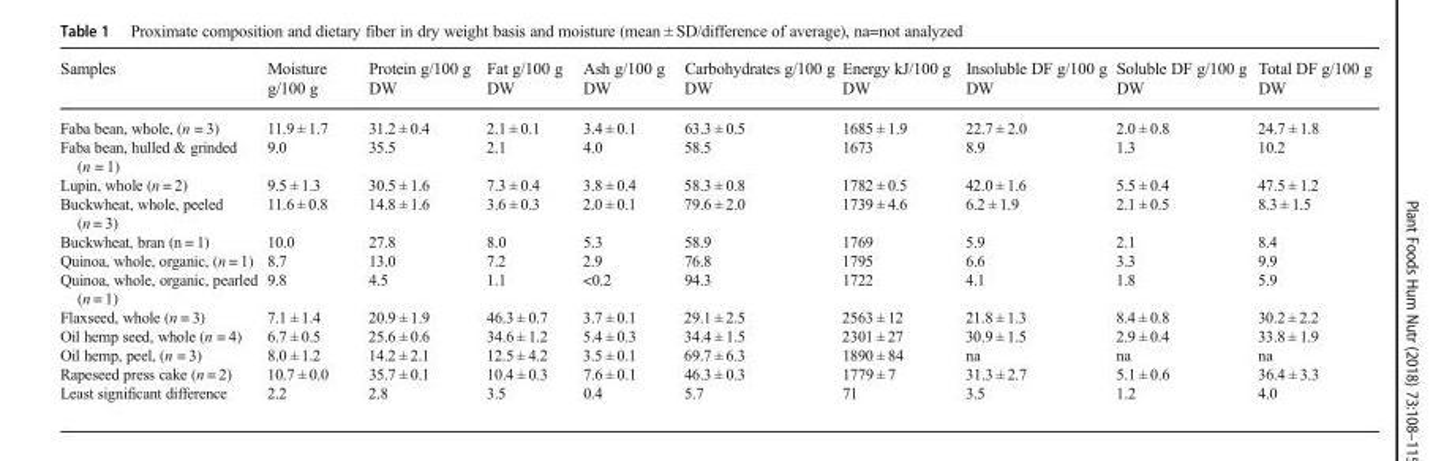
<table><thead><tr><td>Samples</td><td>Moisture g/100 g</td><td>Protein g/100 g DW</td><td>Fat g/100 g DW</td><td>Ash g/100 g DW</td><td>Carbohydrates g/100 g DW</td><td>Energy kJ/100 g DW</td><td>Insoluble DF g/100 g DW</td><td>Soluble DF g/100 g DW</td><td>Total DF g/100 g DW</td></tr></thead><tbody><tr><td>Faba bean, whole, (n = 3)</td><td>11.9 ± 1.7</td><td>31.2 ± 0.4</td><td>2.1 ± 0.1</td><td>3.4 ± 0.1</td><td>63.3 ± 0.5</td><td>1685 ± 1.9</td><td>22.7 ± 2.0</td><td>2.0 ± 0.8</td><td>24.7 ± 1.8</td></tr><tr><td>Faba bean, hulled &amp; grinded (n = 1)</td><td>9.0</td><td>35.5</td><td>2.1</td><td>4.0</td><td>58.5</td><td>1673</td><td>8.9</td><td>1.3</td><td>10.2</td></tr><tr><td>Lupin, whole (n = 2)</td><td>9.5 ± 1.3</td><td>30.5 ± 1.6</td><td>7.3 ± 0.4</td><td>3.8 ± 0.4</td><td>58.3 ± 0.8</td><td>1782 ± 0.5</td><td>42.0 ± 1.6</td><td>5.5 ± 0.4</td><td>47.5 ± 1.2</td></tr><tr><td>Buckwheat, whole, peeled (n = 3)</td><td>11.6 ± 0.8</td><td>14.8 ± 1.6</td><td>3.6 ± 0.3</td><td>2.0 ± 0.1</td><td>79.6 ± 2.0</td><td>1739 ± 4.6</td><td>6.2 ± 1.9</td><td>2.1 ± 0.5</td><td>8.3 ± 1.5</td></tr><tr><td>Buckwheat, bran (n = 1)</td><td>10.0</td><td>27.8</td><td>8.0</td><td>5.3</td><td>58.9</td><td>1769</td><td>5.9</td><td>2.1</td><td>8.4</td></tr><tr><td>Quinoa, whole, organic, (n = 1)</td><td>8.7</td><td>13.0</td><td>7.2</td><td>2.9</td><td>76.8</td><td>1795</td><td>6.6</td><td>3.3</td><td>9.9</td></tr><tr><td>Quinoa, whole, organic, pearled (n = 1)</td><td>9.8</td><td>4.5</td><td>1.1</td><td>&lt;0.2</td><td>94.3</td><td>1722</td><td>4.1</td><td>1.8</td><td>5.9</td></tr><tr><td>Flaxseed, whole (n = 3)</td><td>7.1 ± 1.4</td><td>20.9 ± 1.9</td><td>46.3 ± 0.7</td><td>3.7 ± 0.1</td><td>29.1 ± 2.5</td><td>2563 ± 12</td><td>21.8 ± 1.3</td><td>8.4 ± 0.8</td><td>30.2 ± 2.2</td></tr><tr><td>Oil hemp seed, whole (n = 4)</td><td>6.7 ± 0.5</td><td>25.6 ± 0.6</td><td>34.6 ± 1.2</td><td>5.4 ± 0.3</td><td>34.4 ± 1.5</td><td>2301 ± 27</td><td>30.9 ± 1.5</td><td>2.9 ± 0.4</td><td>33.8 ± 1.9</td></tr><tr><td>Oil hemp, peel, (n = 3)</td><td>8.0 ± 1.2</td><td>14.2 ± 2.1</td><td>12.5 ± 4.2</td><td>3.5 ± 0.1</td><td>69.7 ± 6.3</td><td>1890 ± 84</td><td>na</td><td>na</td><td>na</td></tr><tr><td>Rapeseed press cake (n = 2)</td><td>10.7 ± 0.0</td><td>35.7 ± 0.1</td><td>10.4 ± 0.3</td><td>7.6 ± 0.1</td><td>46.3 ± 0.3</td><td>1779 ± 7</td><td>31.3 ± 2.7</td><td>5.1 ± 0.6</td><td>36.4 ± 3.3</td></tr><tr><td>Least significant difference</td><td>2.2</td><td>2.8</td><td>3.5</td><td>0.4</td><td>5.7</td><td>71</td><td>3.5</td><td>1.2</td><td>4.0</td></tr></tbody></table>